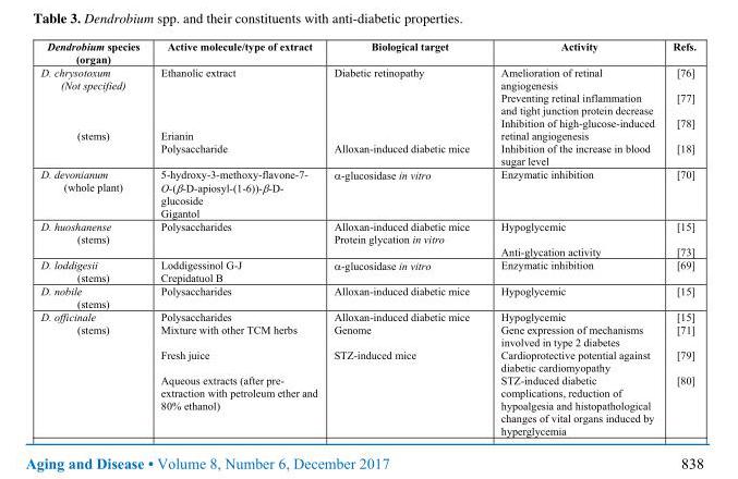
<table><thead><tr><td>Dendrobium species (organ)</td><td>Active molecule/type of extract</td><td>Biological target</td><td>Activity</td><td>Refs.</td></tr></thead><tbody><tr><td>D. chrysotoxum (Not specified) (stems)</td><td>Ethanolic extract Erianin Polysaccharide</td><td>Diabetic retinopathy Alloxan-induced diabetic mice</td><td>Amelioration of retinal angiogenesis Preventing retinal inflammation and tight junction protein decrease Inhibition of high-glucose-induced retinal angiogenesis Inhibition of the increase in blood sugar level</td><td>[76] [77] [78] [18]</td></tr><tr><td>D. devonianum (whole plant)</td><td>5-hydroxy-3-methoxy-flavone-7- O-(β-D-apiosyl-(1-6))-β-D- glucoside Gigantol</td><td>α-glucosidase in vitro</td><td>Enzymatic inhibition</td><td>[70]</td></tr><tr><td>D. huoshanense (stems)</td><td>Polysaccharides</td><td>Alloxan-induced diabetic mice Protein glycation in vitro</td><td>Hypoglycemic Anti-glycation activity</td><td>[15] [73]</td></tr><tr><td>D. loddigesii (stems)</td><td>Loddigessinol G-J Crepidatuol B</td><td>α-glucosidase in vitro</td><td>Enzymatic inhibition</td><td>[69]</td></tr><tr><td>D. nobile (stems)</td><td>Polysaccharides</td><td>Alloxan-induced diabetic mice</td><td>Hypoglycemic</td><td>[15]</td></tr><tr><td>D. officinale (stems)</td><td>Polysaccharides Mixture with other TCM herbs Fresh juice Aqueous extracts (after pre- extraction with petroleum ether and 80% ethanol)</td><td>Alloxan-induced diabetic mice Genome STZ-induced mice</td><td>Hypoglycemic Gene expression of mechanisms involved in type 2 diabetes Cardioprotective potential against diabetic cardiomyopathy STZ-induced diabetic complications, reduction of hypoalgesia and histopathological changes of vital organs induced by hyperglycemia</td><td>[15] [71] [79] [80]</td></tr></tbody></table>